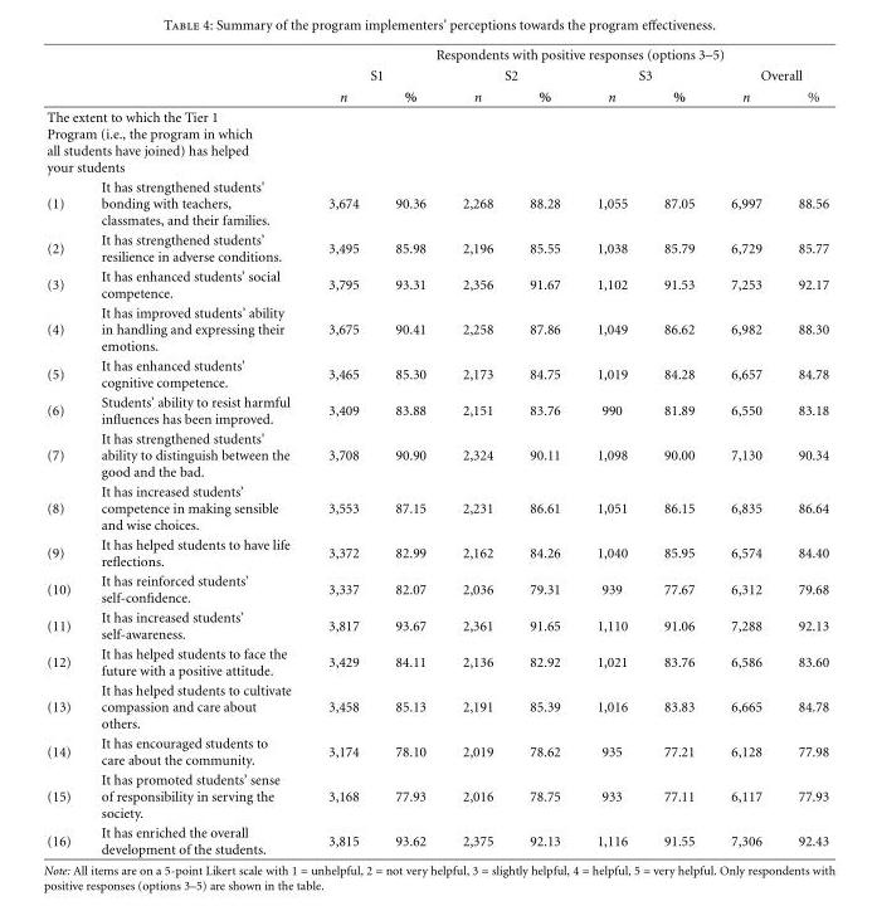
<table><thead><tr><td rowspan="3"></td><td rowspan="3"></td><td colspan="8">Respondents with positive responses (options 3–5)</td></tr><tr><td colspan="2">S1</td><td colspan="2">S2</td><td colspan="2">S3</td><td colspan="2">Overall</td></tr><tr><td>n</td><td>%</td><td>n</td><td>%</td><td>n</td><td>%</td><td>n</td><td>%</td></tr></thead><tbody><tr><td colspan="10">The extent to which the Tier 1 Program (i.e., the program in which all students have joined) has helped your students</td></tr><tr><td>(1)</td><td>It has strengthened students’ bonding with teachers, classmates, and their families.</td><td>3,674</td><td>90.36</td><td>2,268</td><td>88.28</td><td>1,055</td><td>87.05</td><td>6,997</td><td>88.56</td></tr><tr><td>(2)</td><td>It has strengthened students’ resilience in adverse conditions.</td><td>3,495</td><td>85.98</td><td>2,196</td><td>85.55</td><td>1,038</td><td>85.79</td><td>6,729</td><td>85.77</td></tr><tr><td>(3)</td><td>It has enhanced students’ social competence.</td><td>3,795</td><td>93.31</td><td>2,356</td><td>91.67</td><td>1,102</td><td>91.53</td><td>7,253</td><td>92.17</td></tr><tr><td>(4)</td><td>It has improved students’ ability in handling and expressing their emotions.</td><td>3,675</td><td>90.41</td><td>2,258</td><td>87.86</td><td>1,049</td><td>86.62</td><td>6,982</td><td>88.30</td></tr><tr><td>(5)</td><td>It has enhanced students’ cognitive competence.</td><td>3,465</td><td>85.30</td><td>2,173</td><td>84.75</td><td>1,019</td><td>84.28</td><td>6,657</td><td>84.78</td></tr><tr><td>(6)</td><td>Students’ ability to resist harmful influences has been improved.</td><td>3,409</td><td>83.88</td><td>2,151</td><td>83.76</td><td>990</td><td>81.89</td><td>6,550</td><td>83.18</td></tr><tr><td>(7)</td><td>It has strengthened students’ ability to distinguish between the good and the bad.</td><td>3,708</td><td>90.90</td><td>2,324</td><td>90.11</td><td>1,098</td><td>90.00</td><td>7,130</td><td>90.34</td></tr><tr><td>(8)</td><td>It has increased students’ competence in making sensible and wise choices.</td><td>3,553</td><td>87.15</td><td>2,231</td><td>86.61</td><td>1,051</td><td>86.15</td><td>6,835</td><td>86.64</td></tr><tr><td>(9)</td><td>It has helped students to have life reflections.</td><td>3,372</td><td>82.99</td><td>2,162</td><td>84.26</td><td>1,040</td><td>85.95</td><td>6,574</td><td>84.40</td></tr><tr><td>(10)</td><td>It has reinforced students’ self-confidence.</td><td>3,337</td><td>82.07</td><td>2,036</td><td>79.31</td><td>939</td><td>77.67</td><td>6,312</td><td>79.68</td></tr><tr><td>(11)</td><td>It has increased students’ self-awareness.</td><td>3,817</td><td>93.67</td><td>2,361</td><td>91.65</td><td>1,110</td><td>91.06</td><td>7,288</td><td>92.13</td></tr><tr><td>(12)</td><td>It has helped students to face the future with a positive attitude.</td><td>3,429</td><td>84.11</td><td>2,136</td><td>82.92</td><td>1,021</td><td>83.76</td><td>6,586</td><td>83.60</td></tr><tr><td>(13)</td><td>It has helped students to cultivate compassion and care about others.</td><td>3,458</td><td>85.13</td><td>2,191</td><td>85.39</td><td>1,016</td><td>83.83</td><td>6,665</td><td>84.78</td></tr><tr><td>(14)</td><td>It has encouraged students to care about the community.</td><td>3,174</td><td>78.10</td><td>2,019</td><td>78.62</td><td>935</td><td>77.21</td><td>6,128</td><td>77.98</td></tr><tr><td>(15)</td><td>It has promoted students’ sense of responsibility in serving the society.</td><td>3,168</td><td>77.93</td><td>2,016</td><td>78.75</td><td>933</td><td>77.11</td><td>6,117</td><td>77.93</td></tr><tr><td>(16)</td><td>It has enriched the overall development of the students.</td><td>3,815</td><td>93.62</td><td>2,375</td><td>92.13</td><td>1,116</td><td>91.55</td><td>7,306</td><td>92.43</td></tr></tbody></table>